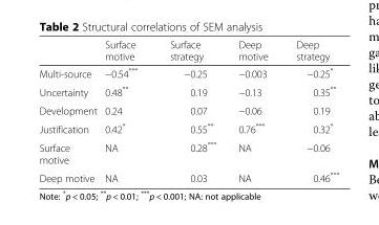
<table><thead><tr><td></td><td>Surface motive</td><td>Surface strategy</td><td>Deep motive</td><td>Deep strategy</td></tr></thead><tbody><tr><td>Multi-source</td><td>−0.54***</td><td>−0.25</td><td>−0.003</td><td>−0.25*</td></tr><tr><td>Uncertainty</td><td>0.48**</td><td>0.19</td><td>−0.13</td><td>0.35**</td></tr><tr><td>Development</td><td>0.24</td><td>0.07</td><td>−0.06</td><td>0.19</td></tr><tr><td>Justification</td><td>0.42*</td><td>0.55**</td><td>0.76***</td><td>0.32*</td></tr><tr><td>Surface motive</td><td>NA</td><td>0.28***</td><td>NA</td><td>−0.06</td></tr><tr><td>Deep motive</td><td>NA</td><td>0.03</td><td>NA</td><td>0.46***</td></tr></tbody></table>